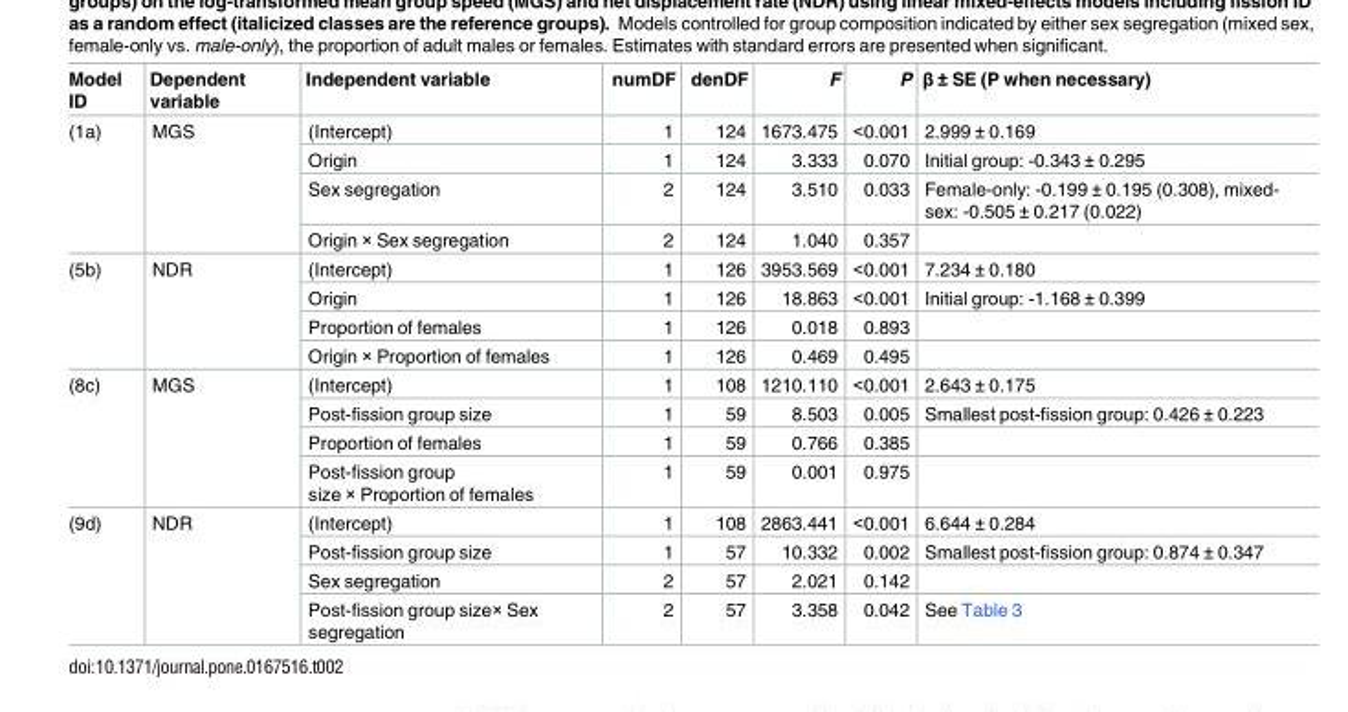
<table><thead><tr><td>Model ID</td><td>Dependent variable</td><td>Independent variable</td><td>numDF</td><td>denDF</td><td>F</td><td>P</td><td>β ± SE (P when necessary)</td></tr></thead><tbody><tr><td rowspan="4">(1a)</td><td rowspan="4">MGS</td><td>(Intercept)</td><td>1</td><td>124</td><td>1673.475</td><td>&lt;0.001</td><td>2.999 ± 0.169</td></tr><tr><td>Origin</td><td>1</td><td>124</td><td>3.333</td><td>0.070</td><td>Initial group: -0.343 ± 0.295</td></tr><tr><td>Sex segregation</td><td>2</td><td>124</td><td>3.510</td><td>0.033</td><td>Female-only: -0.199 ± 0.195 (0.308), mixed- sex: -0.505 ± 0.217 (0.022)</td></tr><tr><td>Origin × Sex segregation</td><td>2</td><td>124</td><td>1.040</td><td>0.357</td><td></td></tr><tr><td rowspan="4">(5b)</td><td rowspan="4">NDR</td><td>(Intercept)</td><td>1</td><td>126</td><td>3953.569</td><td>&lt;0.001</td><td>7.234 ± 0.180</td></tr><tr><td>Origin</td><td>1</td><td>126</td><td>18.863</td><td>&lt;0.001</td><td>Initial group: -1.168 ± 0.399</td></tr><tr><td>Proportion of females</td><td>1</td><td>126</td><td>0.018</td><td>0.893</td><td></td></tr><tr><td>Origin × Proportion of females</td><td>1</td><td>126</td><td>0.469</td><td>0.495</td><td></td></tr><tr><td rowspan="4">(8c)</td><td rowspan="4">MGS</td><td>(Intercept)</td><td>1</td><td>108</td><td>1210.110</td><td>&lt;0.001</td><td>2.643 ± 0.175</td></tr><tr><td>Post-fission group size</td><td>1</td><td>59</td><td>8.503</td><td>0.005</td><td>Smallest post-fission group: 0.426 ± 0.223</td></tr><tr><td>Proportion of females</td><td>1</td><td>59</td><td>0.766</td><td>0.385</td><td></td></tr><tr><td>Post-fission group size × Proportion of females</td><td>1</td><td>59</td><td>0.001</td><td>0.975</td><td></td></tr><tr><td rowspan="4">(9d)</td><td rowspan="4">NDR</td><td>(Intercept)</td><td>1</td><td>108</td><td>2863.441</td><td>&lt;0.001</td><td>6.644 ± 0.284</td></tr><tr><td>Post-fission group size</td><td>1</td><td>57</td><td>10.332</td><td>0.002</td><td>Smallest post-fission group: 0.874 ± 0.347</td></tr><tr><td>Sex segregation</td><td>2</td><td>57</td><td>2.021</td><td>0.142</td><td></td></tr><tr><td>Post-fission group size× Sex segregation</td><td>2</td><td>57</td><td>3.358</td><td>0.042</td><td>See Table 3</td></tr></tbody></table>